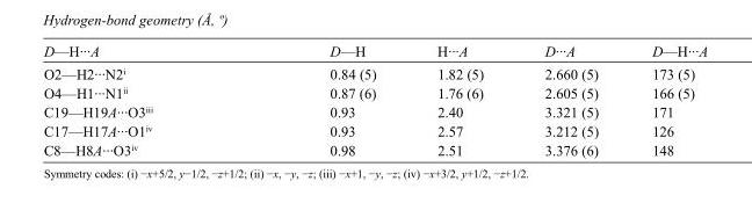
<table><tbody><tr><td>D—H···A</td><td>D—H</td><td>H···A</td><td>D···A</td><td>D—H···A</td></tr><tr><td>O2—H2···N2<sup>i</sup></td><td>0.84 (5)</td><td>1.82 (5)</td><td>2.660 (5)</td><td>173 (5)</td></tr><tr><td>O4—H1···N1<sup>ii</sup></td><td>0.87 (6)</td><td>1.76 (6)</td><td>2.605 (5)</td><td>166 (5)</td></tr><tr><td>C19—H19A···O3<sup>iii</sup></td><td>0.93</td><td>2.40</td><td>3.321 (5)</td><td>171</td></tr><tr><td>C17—H17A···O1<sup>iv</sup></td><td>0.93</td><td>2.57</td><td>3.212 (5)</td><td>126</td></tr><tr><td>C8—H8A···O3<sup>iv</sup></td><td>0.98</td><td>2.51</td><td>3.376 (6)</td><td>148</td></tr></tbody></table>